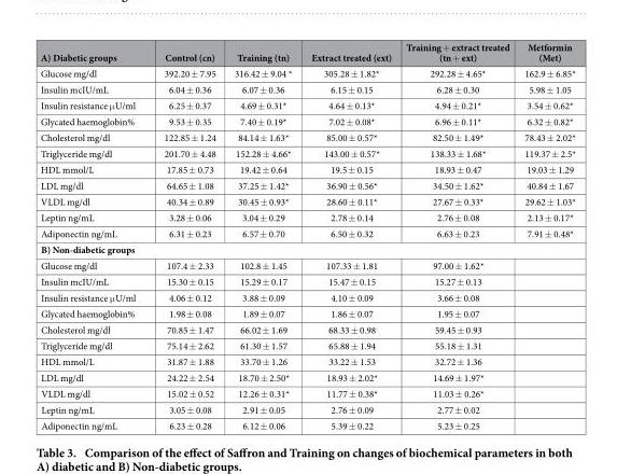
<table><thead><tr><td>A) Diabetic groups</td><td>Control (cn)</td><td>Training (tn)</td><td>Extract treated (ext)</td><td>Training + extract treated (tn + ext)</td><td>Metformin (Met)</td></tr></thead><tbody><tr><td>Glucose mg/dl</td><td>392.20 ± 7.95</td><td>316.42 ± 9.04 *</td><td>305.28 ± 1.82*</td><td>292.28 ± 4.65*</td><td>162.9 ± 6.85*</td></tr><tr><td>Insulin mcIU/mL</td><td>6.04 ± 0.36</td><td>6.07 ± 0.36</td><td>6.15 ± 0.15</td><td>6.28 ± 0.30</td><td>5.98 ± 1.05</td></tr><tr><td>Insulin resistance μ U/ml</td><td>6.25 ± 0.37</td><td>4.69 ± 0.31*</td><td>4.64 ± 0.13*</td><td>4.94 ± 0.21*</td><td>3.54 ± 0.62*</td></tr><tr><td>Glycated haemoglobin%</td><td>9.53 ± 0.35</td><td>7.40 ± 0.19*</td><td>7.02 ± 0.08*</td><td>6.96 ± 0.11*</td><td>6.32 ± 0.82*</td></tr><tr><td>Cholesterol mg/dl</td><td>122.85 ± 1.24</td><td>84.14 ± 1.63*</td><td>85.00 ± 0.57*</td><td>82.50 ± 1.49*</td><td>78.43 ± 2.02*</td></tr><tr><td>Triglyceride mg/dl</td><td>201.70 ± 4.48</td><td>152.28 ± 4.66*</td><td>143.00 ± 0.57*</td><td>138.33 ± 1.68*</td><td>119.37 ± 2.5*</td></tr><tr><td>HDL mmol/L</td><td>17.85 ± 0.73</td><td>19.42 ± 0.64</td><td>19.5 ± 0.15</td><td>18.93 ± 0.47</td><td>19.03 ± 1.29</td></tr><tr><td>LDL mg/dl</td><td>64.65 ± 1.08</td><td>37.25 ± 1.42*</td><td>36.90 ± 0.56*</td><td>34.50 ± 1.62*</td><td>40.84 ± 1.67</td></tr><tr><td>VLDL mg/dl</td><td>40.34 ± 0.89</td><td>30.45 ± 0.93*</td><td>28.60 ± 0.11*</td><td>27.67 ± 0.33*</td><td>29.62 ± 1.03*</td></tr><tr><td>Leptin ng/mL</td><td>3.28 ± 0.06</td><td>3.04 ± 0.29</td><td>2.78 ± 0.14</td><td>2.76 ± 0.08</td><td>2.13 ± 0.17*</td></tr><tr><td>Adiponectin ng/mL</td><td>6.31 ± 0.23</td><td>6.57 ± 0.70</td><td>6.50 ± 0.32</td><td>6.63 ± 0.23</td><td>7.91 ± 0.48*</td></tr><tr><td colspan="6">B) Non-diabetic groups</td></tr><tr><td>Glucose mg/dl</td><td>107.4 ± 2.33</td><td>102.8 ± 1.45</td><td>107.33 ± 1.81</td><td>97.00 ± 1.62*</td><td></td></tr><tr><td>Insulin mcIU/mL</td><td>15.30 ± 0.15</td><td>15.29 ± 0.17</td><td>15.47 ± 0.15</td><td>15.27 ± 0.13</td><td></td></tr><tr><td>Insulin resistance μ U/ml</td><td>4.06 ± 0.12</td><td>3.88 ± 0.09</td><td>4.10 ± 0.09</td><td>3.66 ± 0.08</td><td></td></tr><tr><td>Glycated haemoglobin%</td><td>1.98 ± 0.08</td><td>1.89 ± 0.07</td><td>1.86 ± 0.07</td><td>1.95 ± 0.07</td><td></td></tr><tr><td>Cholesterol mg/dl</td><td>70.85 ± 1.47</td><td>66.02 ± 1.69</td><td>68.33 ± 0.98</td><td>59.45 ± 0.93</td><td></td></tr><tr><td>Triglyceride mg/dl</td><td>75.14 ± 2.62</td><td>61.30 ± 1.57</td><td>65.88 ± 1.94</td><td>55.18 ± 1.31</td><td></td></tr><tr><td>HDL mmol/L</td><td>31.87 ± 1.88</td><td>33.70 ± 1.26</td><td>33.22 ± 1.53</td><td>32.72 ± 1.36</td><td></td></tr><tr><td>LDL mg/dl</td><td>24.22 ± 2.54</td><td>18.70 ± 2.50*</td><td>18.93 ± 2.02*</td><td>14.69 ± 1.97*</td><td></td></tr><tr><td>VLDL mg/dl</td><td>15.02 ± 0.52</td><td>12.26 ± 0.31*</td><td>11.77 ± 0.38*</td><td>11.03 ± 0.26*</td><td></td></tr><tr><td>Leptin ng/mL</td><td>3.05 ± 0.08</td><td>2.91 ± 0.05</td><td>2.76 ± 0.09</td><td>2.77 ± 0.02</td><td></td></tr><tr><td>Adiponectin ng/mL</td><td>6.23 ± 0.28</td><td>6.12 ± 0.06</td><td>5.39 ± 0.22</td><td>5.23 ± 0.25</td><td></td></tr></tbody></table>